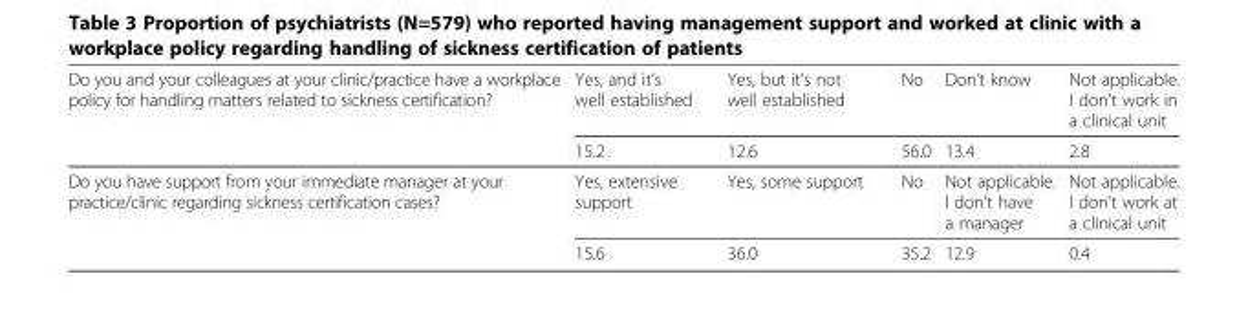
<table><tbody><tr><td rowspan="2">Do you and your colleagues at your clinic/practice have a workplace policy for handling matters related to sickness certification?</td><td>Yes, and it’s well established</td><td>Yes, but it’s not well established</td><td>No</td><td>Don’t know</td><td>Not applicable. I don’t work in a clinical unit</td></tr><tr><td>15.2</td><td>12.6</td><td>56.0</td><td>13.4</td><td>2.8</td></tr><tr><td rowspan="2">Do you have support from your immediate manager at your practice/clinic regarding sickness certification cases?</td><td>Yes, extensive support</td><td>Yes, some support</td><td>No</td><td>Not applicable. I don’t have a manager</td><td>Not applicable. I don’t work at a clinical unit</td></tr><tr><td>15.6</td><td>36.0</td><td>35.2</td><td>12.9</td><td>0.4</td></tr></tbody></table>